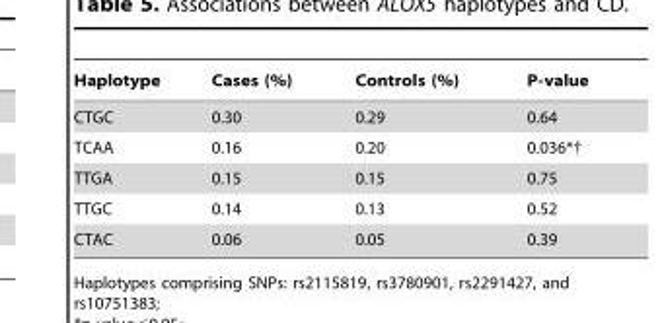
<table><thead><tr><td>Haplotype</td><td>Cases (%)</td><td>Controls (%)</td><td>P-value</td></tr></thead><tbody><tr><td>CTGC</td><td>0.30</td><td>0.29</td><td>0.64</td></tr><tr><td>TCAA</td><td>0.16</td><td>0.20</td><td>0.036*†</td></tr><tr><td>TTGA</td><td>0.15</td><td>0.15</td><td>0.75</td></tr><tr><td>TTGC</td><td>0.14</td><td>0.13</td><td>0.52</td></tr><tr><td>CTAC</td><td>0.06</td><td>0.05</td><td>0.39</td></tr></tbody></table>